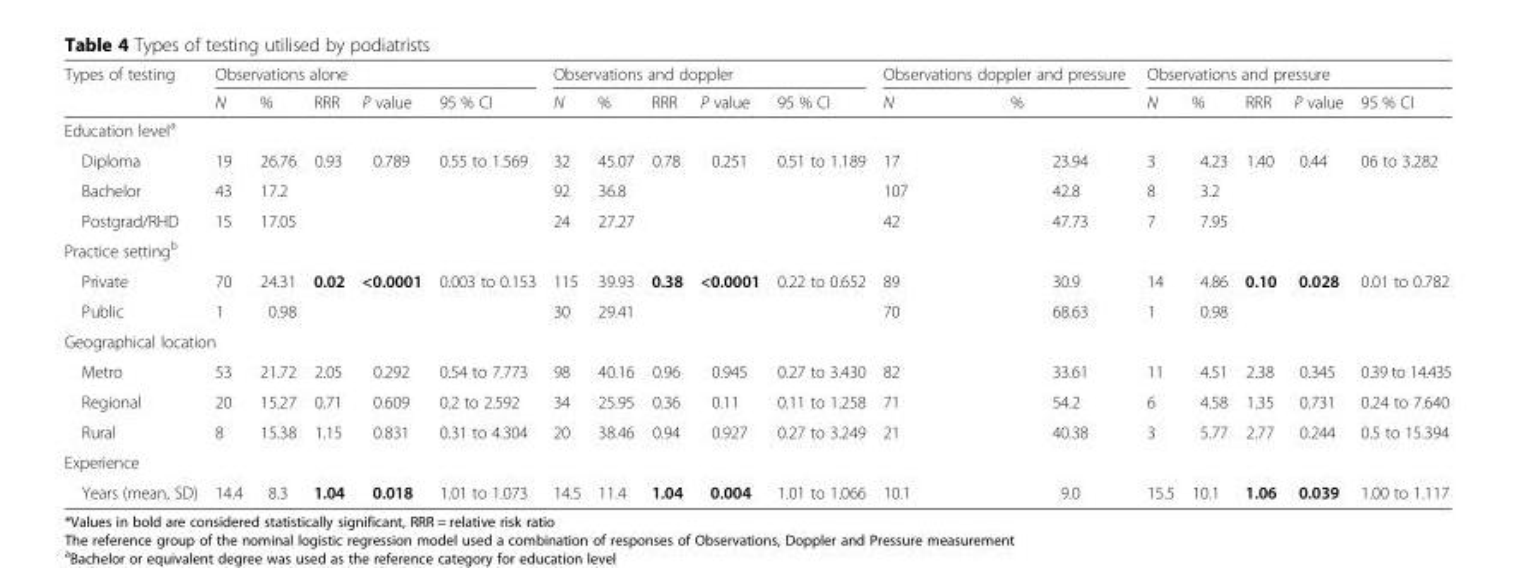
<table><thead><tr><td rowspan="2">Types of testing</td><td colspan="5">Observations alone</td><td colspan="5">Observations and doppler</td><td colspan="2">Observations doppler and pressure</td><td colspan="5">Observations and pressure</td></tr><tr><td>N</td><td>%</td><td>RRR</td><td>P value</td><td>95 % CI</td><td>N</td><td>%</td><td>RRR</td><td>P value</td><td>95 % CI</td><td>N</td><td>%</td><td>N</td><td>%</td><td>RRR</td><td>P value</td><td>95 % CI</td></tr></thead><tbody><tr><td colspan="18">Education level<sup>a</sup></td></tr><tr><td>Diploma</td><td>19</td><td>26.76</td><td>0.93</td><td>0.789</td><td>0.55 to 1.569</td><td>32</td><td>45.07</td><td>0.78</td><td>0.251</td><td>0.51 to 1.189</td><td>17</td><td>23.94</td><td>3</td><td>4.23</td><td>1.40</td><td>0.44</td><td>06 to 3.282</td></tr><tr><td>Bachelor</td><td>43</td><td>17.2</td><td></td><td></td><td></td><td>92</td><td>36.8</td><td></td><td></td><td></td><td>107</td><td>42.8</td><td>8</td><td>3.2</td><td></td><td></td><td></td></tr><tr><td>Postgrad/RHD</td><td>15</td><td>17.05</td><td></td><td></td><td></td><td>24</td><td>27.27</td><td></td><td></td><td></td><td>42</td><td>47.73</td><td>7</td><td>7.95</td><td></td><td></td><td></td></tr><tr><td colspan="18">Practice setting<sup>b</sup></td></tr><tr><td>Private</td><td>70</td><td>24.31</td><td>0.02</td><td>&lt;0.0001</td><td>0.003 to 0.153</td><td>115</td><td>39.93</td><td>0.38</td><td>&lt;0.0001</td><td>0.22 to 0.652</td><td>89</td><td>30.9</td><td>14</td><td>4.86</td><td>0.10</td><td>0.028</td><td>0.01 to 0.782</td></tr><tr><td>Public</td><td>1</td><td>0.98</td><td></td><td></td><td></td><td>30</td><td>29.41</td><td></td><td></td><td></td><td>70</td><td>68.63</td><td>1</td><td>0.98</td><td></td><td></td><td></td></tr><tr><td colspan="18">Geographical location</td></tr><tr><td>Metro</td><td>53</td><td>21.72</td><td>2.05</td><td>0.292</td><td>0.54 to 7.773</td><td>98</td><td>40.16</td><td>0.96</td><td>0.945</td><td>0.27 to 3.430</td><td>82</td><td>33.61</td><td>11</td><td>4.51</td><td>2.38</td><td>0.345</td><td>0.39 to 14.435</td></tr><tr><td>Regional</td><td>20</td><td>15.27</td><td>0.71</td><td>0.609</td><td>0.2 to 2.592</td><td>34</td><td>25.95</td><td>0.36</td><td>0.11</td><td>0.11 to 1.258</td><td>71</td><td>54.2</td><td>6</td><td>4.58</td><td>1.35</td><td>0.731</td><td>0.24 to 7.640</td></tr><tr><td>Rural</td><td>8</td><td>15.38</td><td>1.15</td><td>0.831</td><td>0.31 to 4.304</td><td>20</td><td>38.46</td><td>0.94</td><td>0.927</td><td>0.27 to 3.249</td><td>21</td><td>40.38</td><td>3</td><td>5.77</td><td>2.77</td><td>0.244</td><td>0.5 to 15.394</td></tr><tr><td colspan="18">Experience</td></tr><tr><td>Years (mean, SD)</td><td>14.4</td><td>8.3</td><td>1.04</td><td>0.018</td><td>1.01 to 1.073</td><td>14.5</td><td>11.4</td><td>1.04</td><td>0.004</td><td>1.01 to 1.066</td><td>10.1</td><td>9.0</td><td>15.5</td><td>10.1</td><td>1.06</td><td>0.039</td><td>1.00 to 1.117</td></tr></tbody></table>